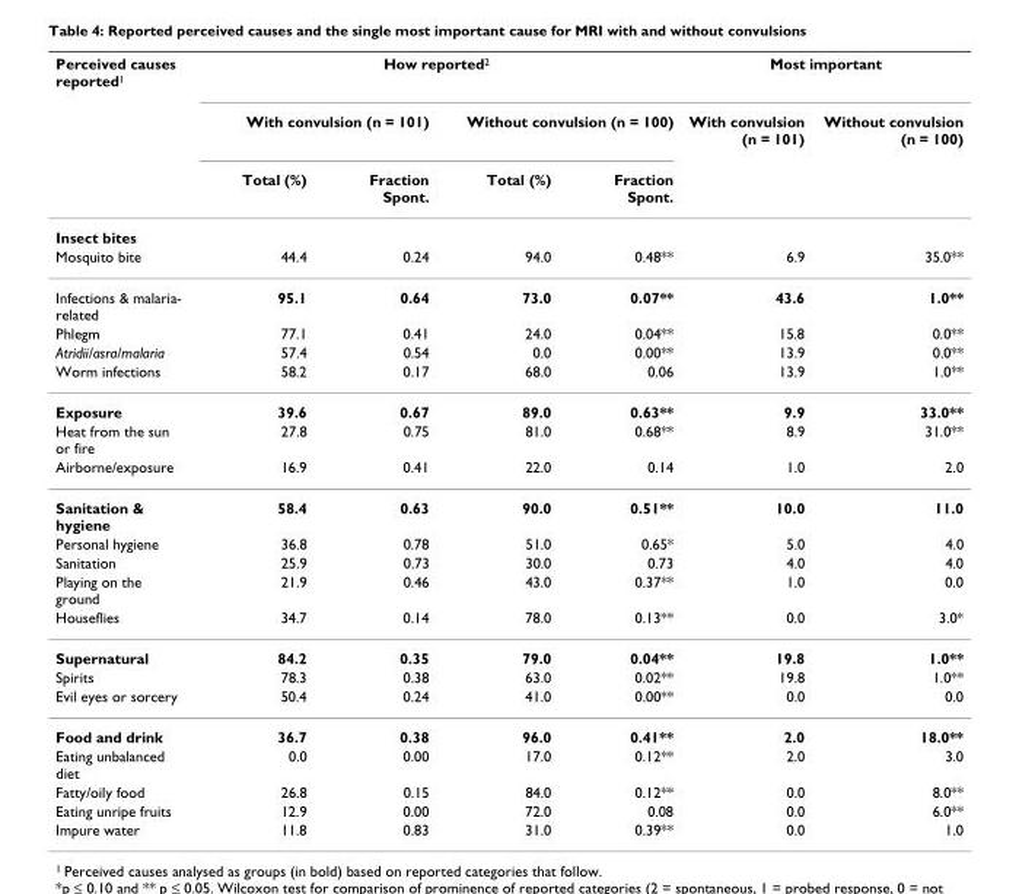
<table><thead><tr><td rowspan="3">Perceived causes reported1</td><td colspan="4">How reported2</td><td colspan="2">Most important</td></tr><tr><td colspan="2">With convulsion (n = 101)</td><td colspan="2">Without convulsion (n = 100)</td><td rowspan="2">With convulsion (n = 101)</td><td rowspan="2">Without convulsion (n = 100)</td></tr><tr><td>Total (%)</td><td>Fraction Spont.</td><td>Total (%)</td><td>Fraction Spont.</td></tr></thead><tbody><tr><td colspan="7">Insect bites</td></tr><tr><td>Mosquito bite</td><td>44.4</td><td>0.24</td><td>94.0</td><td>0.48**</td><td>6.9</td><td>35.0**</td></tr><tr><td>Infections &amp; malaria- related</td><td>95.1</td><td>0.64</td><td>73.0</td><td>0.07**</td><td>43.6</td><td>1.0**</td></tr><tr><td>Phlegm</td><td>77.1</td><td>0.41</td><td>24.0</td><td>0.04**</td><td>15.8</td><td>0.0**</td></tr><tr><td>Atridii/asra/malaria</td><td>57.4</td><td>0.54</td><td>0.0</td><td>0.00**</td><td>13.9</td><td>0.0**</td></tr><tr><td>Worm infections</td><td>58.2</td><td>0.17</td><td>68.0</td><td>0.06</td><td>13.9</td><td>1.0**</td></tr><tr><td>Exposure</td><td>39.6</td><td>0.67</td><td>89.0</td><td>0.63**</td><td>9.9</td><td>33.0**</td></tr><tr><td>Heat from the sun or fire</td><td>27.8</td><td>0.75</td><td>81.0</td><td>0.68**</td><td>8.9</td><td>31.0**</td></tr><tr><td>Airborne/exposure</td><td>16.9</td><td>0.41</td><td>22.0</td><td>0.14</td><td>1.0</td><td>2.0</td></tr><tr><td>Sanitation &amp; hygiene</td><td>58.4</td><td>0.63</td><td>90.0</td><td>0.51**</td><td>10.0</td><td>11.0</td></tr><tr><td>Personal hygiene</td><td>36.8</td><td>0.78</td><td>51.0</td><td>0.65*</td><td>5.0</td><td>4.0</td></tr><tr><td>Sanitation</td><td>25.9</td><td>0.73</td><td>30.0</td><td>0.73</td><td>4.0</td><td>4.0</td></tr><tr><td>Playing on the ground</td><td>21.9</td><td>0.46</td><td>43.0</td><td>0.37**</td><td>1.0</td><td>0.0</td></tr><tr><td>Houseflies</td><td>34.7</td><td>0.14</td><td>78.0</td><td>0.13**</td><td>0.0</td><td>3.0*</td></tr><tr><td>Supernatural</td><td>84.2</td><td>0.35</td><td>79.0</td><td>0.04**</td><td>19.8</td><td>1.0**</td></tr><tr><td>Spirits</td><td>78.3</td><td>0.38</td><td>63.0</td><td>0.02**</td><td>19.8</td><td>1.0**</td></tr><tr><td>Evil eyes or sorcery</td><td>50.4</td><td>0.24</td><td>41.0</td><td>0.00**</td><td>0.0</td><td>0.0</td></tr><tr><td>Food and drink</td><td>36.7</td><td>0.38</td><td>96.0</td><td>0.41**</td><td>2.0</td><td>18.0**</td></tr><tr><td>Eating unbalanced diet</td><td>0.0</td><td>0.00</td><td>17.0</td><td>0.12**</td><td>2.0</td><td>3.0</td></tr><tr><td>Fatty/oily food</td><td>26.8</td><td>0.15</td><td>84.0</td><td>0.12**</td><td>0.0</td><td>8.0**</td></tr><tr><td>Eating unripe fruits</td><td>12.9</td><td>0.00</td><td>72.0</td><td>0.08</td><td>0.0</td><td>6.0**</td></tr><tr><td>Impure water</td><td>11.8</td><td>0.83</td><td>31.0</td><td>0.39**</td><td>0.0</td><td>1.0</td></tr></tbody></table>